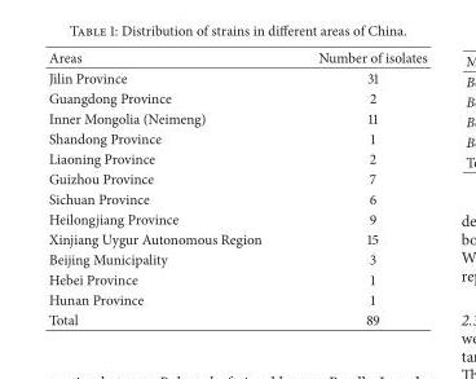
<table><thead><tr><td>Areas</td><td>Number of isolates</td></tr></thead><tbody><tr><td>Jilin Province</td><td>31</td></tr><tr><td>Guangdong Province</td><td>2</td></tr><tr><td>Inner Mongolia (Neimeng)</td><td>11</td></tr><tr><td>Shandong Province</td><td>1</td></tr><tr><td>Liaoning Province</td><td>2</td></tr><tr><td>Guizhou Province</td><td>7</td></tr><tr><td>Sichuan Province</td><td>6</td></tr><tr><td>Heilongjiang Province</td><td>9</td></tr><tr><td>Xinjiang Uygur Autonomous Region</td><td>15</td></tr><tr><td>Beijing Municipality</td><td>3</td></tr><tr><td>Hebei Province</td><td>1</td></tr><tr><td>Hunan Province</td><td>1</td></tr><tr><td>Total</td><td>89</td></tr></tbody></table>